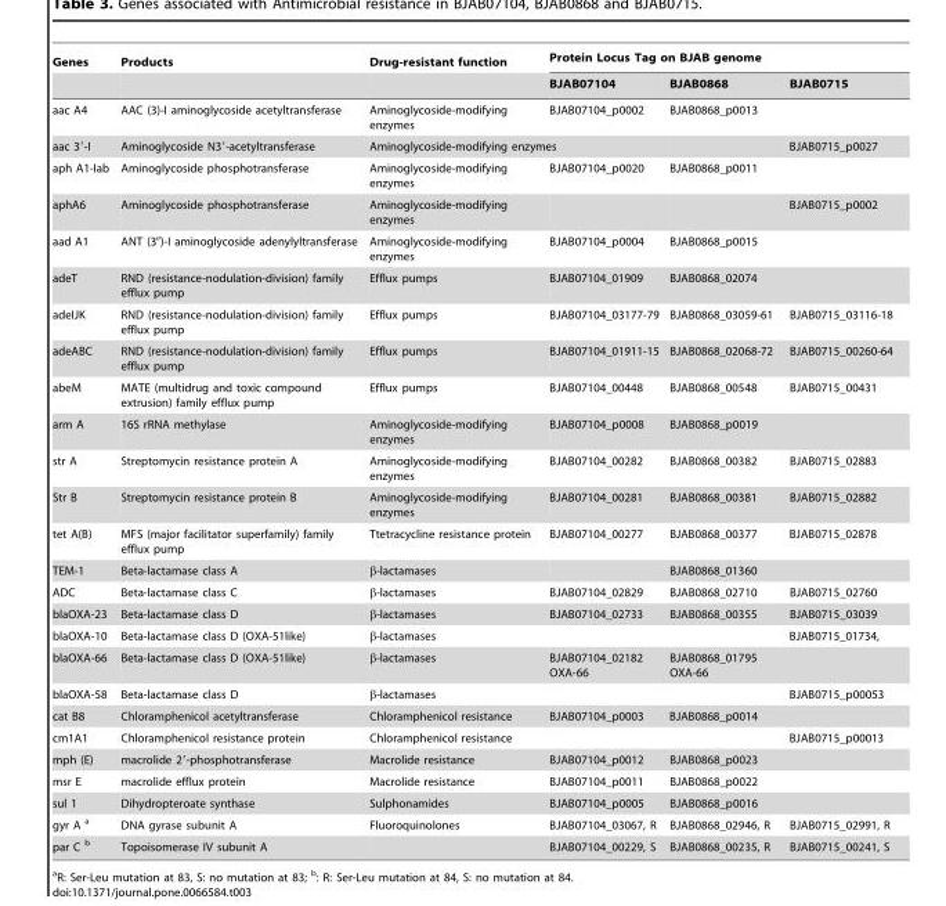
<table><thead><tr><td rowspan="2">Genes</td><td rowspan="2">Products</td><td rowspan="2">Drug-resistant function</td><td colspan="3">Protein Locus Tag on BJAB genome</td></tr><tr><td>BJAB07104</td><td>BJAB0868</td><td>BJAB0715</td></tr></thead><tbody><tr><td>aac A4</td><td>AAC (3)-I aminoglycoside acetyltransferase</td><td>Aminoglycoside-modifying enzymes</td><td>BJAB07104_p0002</td><td>BJAB0868_p0013</td><td></td></tr><tr><td>aac 3′-I</td><td>Aminoglycoside N3′-acetyltransferase</td><td colspan="2">Aminoglycoside-modifying enzymes</td><td></td><td>BJAB0715_p0027</td></tr><tr><td>aph A1-Iab</td><td>Aminoglycoside phosphotransferase</td><td>Aminoglycoside-modifying enzymes</td><td>BJAB07104_p0020</td><td>BJAB0868_p0011</td><td></td></tr><tr><td>aphA6</td><td>Aminoglycoside phosphotransferase</td><td>Aminoglycoside-modifying enzymes</td><td></td><td></td><td>BJAB0715_p0002</td></tr><tr><td>aad A1</td><td>ANT (3″)-I aminoglycoside adenylyltransferase</td><td>Aminoglycoside-modifying enzymes</td><td>BJAB07104_p0004</td><td>BJAB0868_p0015</td><td></td></tr><tr><td>adeT</td><td>RND (resistance-nodulation-division) family efflux pump</td><td>Efflux pumps</td><td>BJAB07104_01909</td><td>BJAB0868_02074</td><td></td></tr><tr><td>adeIJK</td><td>RND (resistance-nodulation-division) family efflux pump</td><td>Efflux pumps</td><td>BJAB07104_03177-79</td><td>BJAB0868_03059-61</td><td>BJAB0715_03116-18</td></tr><tr><td>adeABC</td><td>RND (resistance-nodulation-division) family efflux pump</td><td>Efflux pumps</td><td>BJAB07104_01911-15</td><td>BJAB0868_02068-72</td><td>BJAB0715_00260-64</td></tr><tr><td>abeM</td><td>MATE (multidrug and toxic compound extrusion) family efflux pump</td><td>Efflux pumps</td><td>BJAB07104_00448</td><td>BJAB0868_00548</td><td>BJAB0715_00431</td></tr><tr><td>arm A</td><td>16S rRNA methylase</td><td>Aminoglycoside-modifying enzymes</td><td>BJAB07104_p0008</td><td>BJAB0868_p0019</td><td></td></tr><tr><td>str A</td><td>Streptomycin resistance protein A</td><td>Aminoglycoside-modifying enzymes</td><td>BJAB07104_00282</td><td>BJAB0868_00382</td><td>BJAB0715_02883</td></tr><tr><td>Str B</td><td>Streptomycin resistance protein B</td><td>Aminoglycoside-modifying enzymes</td><td>BJAB07104_00281</td><td>BJAB0868_00381</td><td>BJAB0715_02882</td></tr><tr><td>tet A(B)</td><td>MFS (major facilitator superfamily) family efflux pump</td><td>Ttetracycline resistance protein</td><td>BJAB07104_00277</td><td>BJAB0868_00377</td><td>BJAB0715_02878</td></tr><tr><td>TEM-1</td><td>Beta-lactamase class A</td><td>β-lactamases</td><td></td><td>BJAB0868_01360</td><td></td></tr><tr><td>ADC</td><td>Beta-lactamase class C</td><td>β-lactamases</td><td>BJAB07104_02829</td><td>BJAB0868_02710</td><td>BJAB0715_02760</td></tr><tr><td>blaOXA-23</td><td>Beta-lactamase class D</td><td>β-lactamases</td><td>BJAB07104_02733</td><td>BJAB0868_00355</td><td>BJAB0715_03039</td></tr><tr><td>blaOXA-10</td><td>Beta-lactamase class D (OXA-51like)</td><td>β-lactamases</td><td></td><td></td><td>BJAB0715_01734,</td></tr><tr><td>blaOXA-66</td><td>Beta-lactamase class D (OXA-51like)</td><td>β-lactamases</td><td>BJAB07104_02182 OXA-66</td><td>BJAB0868_01795 OXA-66</td><td></td></tr><tr><td>blaOXA-58</td><td>Beta-lactamase class D</td><td>β-lactamases</td><td></td><td></td><td>BJAB0715_p00053</td></tr><tr><td>cat B8</td><td>Chloramphenicol acetyltransferase</td><td>Chloramphenicol resistance</td><td>BJAB07104_p0003</td><td>BJAB0868_p0014</td><td></td></tr><tr><td>cm1A1</td><td>Chloramphenicol resistance protein</td><td>Chloramphenicol resistance</td><td></td><td></td><td>BJAB0715_p00013</td></tr><tr><td>mph (E)</td><td>macrolide 2′-phosphotransferase</td><td>Macrolide resistance</td><td>BJAB07104_p0012</td><td>BJAB0868_p0023</td><td></td></tr><tr><td>msr E</td><td>macrolide efflux protein</td><td>Macrolide resistance</td><td>BJAB07104_p0011</td><td>BJAB0868_p0022</td><td></td></tr><tr><td>sul 1</td><td>Dihydropteroate synthase</td><td>Sulphonamides</td><td>BJAB07104_p0005</td><td>BJAB0868_p0016</td><td></td></tr><tr><td>gyr A a</td><td>DNA gyrase subunit A</td><td>Fluoroquinolones</td><td>BJAB07104_03067, R</td><td>BJAB0868_02946, R</td><td>BJAB0715_02991, R</td></tr><tr><td>par C <sup>b</sup></td><td>Topoisomerase IV subunit A</td><td></td><td>BJAB07104_00229, S</td><td>BJAB0868_00235, R</td><td>BJAB0715_00241, S</td></tr></tbody></table>